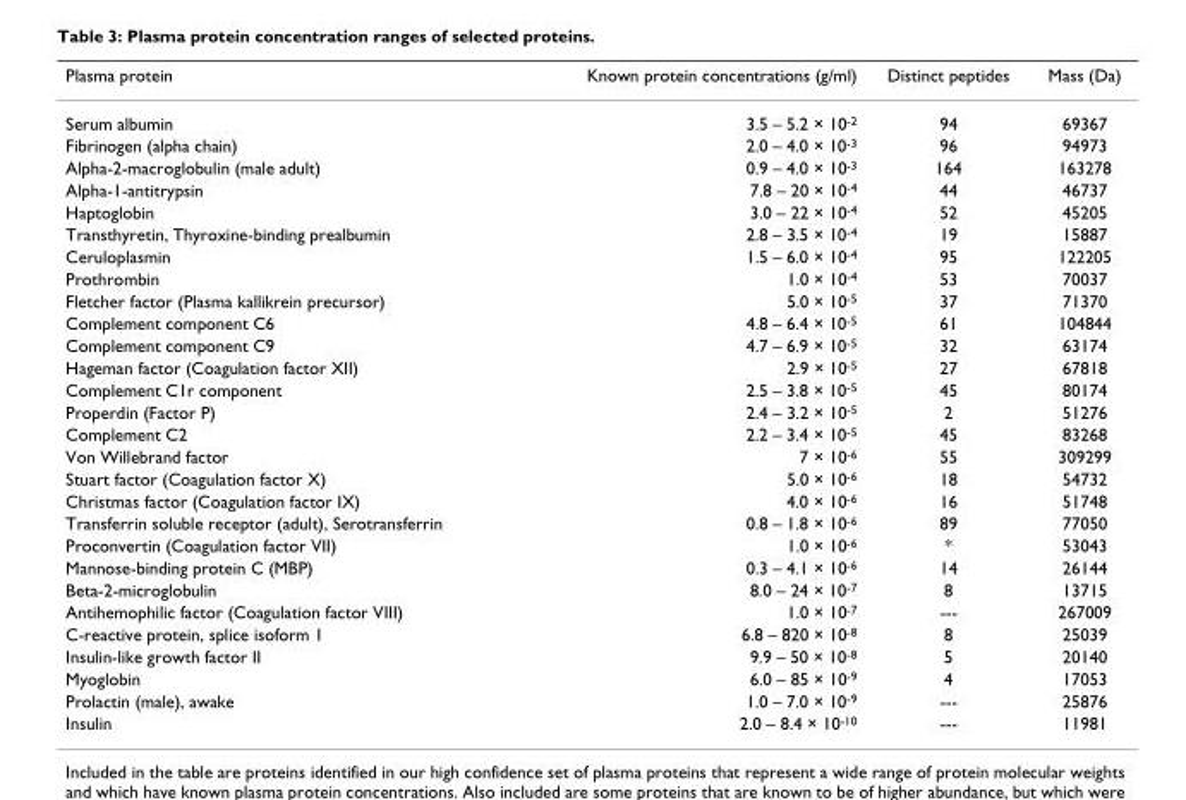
<table><thead><tr><td>Plasma protein</td><td>Known protein concentrations (g/ml)</td><td>Distinct peptides</td><td>Mass (Da)</td></tr></thead><tbody><tr><td>Serum albumin</td><td>3.5 – 5.2 × 10<sup>-2</sup></td><td>94</td><td>69367</td></tr><tr><td>Fibrinogen (alpha chain)</td><td>2.0 – 4.0 × 10<sup>-3</sup></td><td>96</td><td>94973</td></tr><tr><td>Alpha-2-macroglobulin (male adult)</td><td>0.9 – 4.0 × 10<sup>-3</sup></td><td>164</td><td>163278</td></tr><tr><td>Alpha-1-antitrypsin</td><td>7.8 – 20 × 10<sup>-4</sup></td><td>44</td><td>46737</td></tr><tr><td>Haptoglobin</td><td>3.0 – 22 × 10<sup>-4</sup></td><td>52</td><td>45205</td></tr><tr><td>Transthyretin, Thyroxine-binding prealbumin</td><td>2.8 – 3.5 × 10<sup>-4</sup></td><td>19</td><td>15887</td></tr><tr><td>Ceruloplasmin</td><td>1.5 – 6.0 × 10<sup>-4</sup></td><td>95</td><td>122205</td></tr><tr><td>Prothrombin</td><td>1.0 × 10<sup>-4</sup></td><td>53</td><td>70037</td></tr><tr><td>Fletcher factor (Plasma kallikrein precursor)</td><td>5.0 × 10<sup>-5</sup></td><td>37</td><td>71370</td></tr><tr><td>Complement component C6</td><td>4.8 – 6.4 × 10<sup>-5</sup></td><td>61</td><td>104844</td></tr><tr><td>Complement component C9</td><td>4.7 – 6.9 × 10<sup>-5</sup></td><td>32</td><td>63174</td></tr><tr><td>Hageman factor (Coagulation factor XII)</td><td>2.9 × 10<sup>-5</sup></td><td>27</td><td>67818</td></tr><tr><td>Complement C1r component</td><td>2.5 – 3.8 × 10<sup>-5</sup></td><td>45</td><td>80174</td></tr><tr><td>Properdin (Factor P)</td><td>2.4 – 3.2 × 10<sup>-5</sup></td><td>2</td><td>51276</td></tr><tr><td>Complement C2</td><td>2.2 – 3.4 × 10<sup>-5</sup></td><td>45</td><td>83268</td></tr><tr><td>Von Willebrand factor</td><td>7 × 10<sup>-6</sup></td><td>55</td><td>309299</td></tr><tr><td>Stuart factor (Coagulation factor X)</td><td>5.0 × 10<sup>-6</sup></td><td>18</td><td>54732</td></tr><tr><td>Christmas factor (Coagulation factor IX)</td><td>4.0 × 10<sup>-6</sup></td><td>16</td><td>51748</td></tr><tr><td>Transferrin soluble receptor (adult), Serotransferrin</td><td>0.8 – 1.8 × 10<sup>-6</sup></td><td>89</td><td>77050</td></tr><tr><td>Proconvertin (Coagulation factor VII)</td><td>1.0 × 10<sup>-6</sup></td><td>*</td><td>53043</td></tr><tr><td>Mannose-binding protein C (MBP)</td><td>0.3 – 4.1 × 10<sup>-6</sup></td><td>14</td><td>26144</td></tr><tr><td>Beta-2-microglobulin</td><td>8.0 – 24 × 10<sup>-7</sup></td><td>8</td><td>13715</td></tr><tr><td>Antihemophilic factor (Coagulation factor VIII)</td><td>1.0 × 10<sup>-7</sup></td><td>---</td><td>267009</td></tr><tr><td>C-reactive protein, splice isoform 1</td><td>6.8 – 820 × 10<sup>-8</sup></td><td>8</td><td>25039</td></tr><tr><td>Insulin-like growth factor II</td><td>9.9 – 50 × 10<sup>-8</sup></td><td>5</td><td>20140</td></tr><tr><td>Myoglobin</td><td>6.0 – 85 × 10<sup>-9</sup></td><td>4</td><td>17053</td></tr><tr><td>Prolactin (male), awake</td><td>1.0 – 7.0 × 10<sup>-9</sup></td><td>---</td><td>25876</td></tr><tr><td>Insulin</td><td>2.0 – 8.4 × 10<sup>-10</sup></td><td>---</td><td>11981</td></tr></tbody></table>